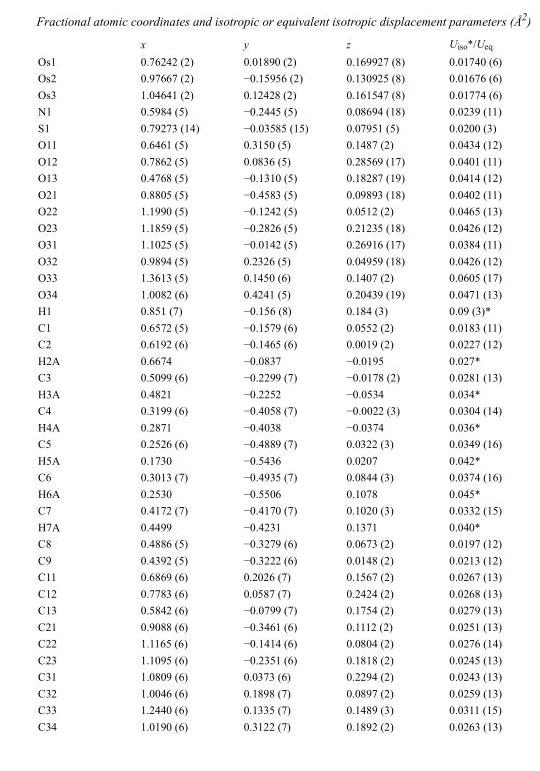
<table><thead><tr><td></td><td>x</td><td>y</td><td>z</td><td>U<sub>iso</sub>*/U<sub>eq</sub></td></tr></thead><tbody><tr><td>Os1</td><td>0.76242 (2)</td><td>0.01890 (2)</td><td>0.169927 (8)</td><td>0.01740 (6)</td></tr><tr><td>Os2</td><td>0.97667 (2)</td><td>−0.15956 (2)</td><td>0.130925 (8)</td><td>0.01676 (6)</td></tr><tr><td>Os3</td><td>1.04641 (2)</td><td>0.12428 (2)</td><td>0.161547 (8)</td><td>0.01774 (6)</td></tr><tr><td>N1</td><td>0.5984 (5)</td><td>−0.2445 (5)</td><td>0.08694 (18)</td><td>0.0239 (11)</td></tr><tr><td>S1</td><td>0.79273 (14)</td><td>−0.03585 (15)</td><td>0.07951 (5)</td><td>0.0200 (3)</td></tr><tr><td>O11</td><td>0.6461 (5)</td><td>0.3150 (5)</td><td>0.1487 (2)</td><td>0.0434 (12)</td></tr><tr><td>O12</td><td>0.7862 (5)</td><td>0.0836 (5)</td><td>0.28569 (17)</td><td>0.0401 (11)</td></tr><tr><td>O13</td><td>0.4768 (5)</td><td>−0.1310 (5)</td><td>0.18287 (19)</td><td>0.0414 (12)</td></tr><tr><td>O21</td><td>0.8805 (5)</td><td>−0.4583 (5)</td><td>0.09893 (18)</td><td>0.0402 (11)</td></tr><tr><td>O22</td><td>1.1990 (5)</td><td>−0.1242 (5)</td><td>0.0512 (2)</td><td>0.0465 (13)</td></tr><tr><td>O23</td><td>1.1859 (5)</td><td>−0.2826 (5)</td><td>0.21235 (18)</td><td>0.0426 (12)</td></tr><tr><td>O31</td><td>1.1025 (5)</td><td>−0.0142 (5)</td><td>0.26916 (17)</td><td>0.0384 (11)</td></tr><tr><td>O32</td><td>0.9894 (5)</td><td>0.2326 (5)</td><td>0.04959 (18)</td><td>0.0426 (12)</td></tr><tr><td>O33</td><td>1.3613 (5)</td><td>0.1450 (6)</td><td>0.1407 (2)</td><td>0.0605 (17)</td></tr><tr><td>O34</td><td>1.0082 (6)</td><td>0.4241 (5)</td><td>0.20439 (19)</td><td>0.0471 (13)</td></tr><tr><td>H1</td><td>0.851 (7)</td><td>−0.156 (8)</td><td>0.184 (3)</td><td>0.09 (3)*</td></tr><tr><td>C1</td><td>0.6572 (5)</td><td>−0.1579 (6)</td><td>0.0552 (2)</td><td>0.0183 (11)</td></tr><tr><td>C2</td><td>0.6192 (6)</td><td>−0.1465 (6)</td><td>0.0019 (2)</td><td>0.0227 (12)</td></tr><tr><td>H2A</td><td>0.6674</td><td>−0.0837</td><td>−0.0195</td><td>0.027*</td></tr><tr><td>C3</td><td>0.5099 (6)</td><td>−0.2299 (7)</td><td>−0.0178 (2)</td><td>0.0281 (13)</td></tr><tr><td>H3A</td><td>0.4821</td><td>−0.2252</td><td>−0.0534</td><td>0.034*</td></tr><tr><td>C4</td><td>0.3199 (6)</td><td>−0.4058 (7)</td><td>−0.0022 (3)</td><td>0.0304 (14)</td></tr><tr><td>H4A</td><td>0.2871</td><td>−0.4038</td><td>−0.0374</td><td>0.036*</td></tr><tr><td>C5</td><td>0.2526 (6)</td><td>−0.4889 (7)</td><td>0.0322 (3)</td><td>0.0349 (16)</td></tr><tr><td>H5A</td><td>0.1730</td><td>−0.5436</td><td>0.0207</td><td>0.042*</td></tr><tr><td>C6</td><td>0.3013 (7)</td><td>−0.4935 (7)</td><td>0.0844 (3)</td><td>0.0374 (16)</td></tr><tr><td>H6A</td><td>0.2530</td><td>−0.5506</td><td>0.1078</td><td>0.045*</td></tr><tr><td>C7</td><td>0.4172 (7)</td><td>−0.4170 (7)</td><td>0.1020 (3)</td><td>0.0332 (15)</td></tr><tr><td>H7A</td><td>0.4499</td><td>−0.4231</td><td>0.1371</td><td>0.040*</td></tr><tr><td>C8</td><td>0.4886 (5)</td><td>−0.3279 (6)</td><td>0.0673 (2)</td><td>0.0197 (12)</td></tr><tr><td>C9</td><td>0.4392 (5)</td><td>−0.3222 (6)</td><td>0.0148 (2)</td><td>0.0213 (12)</td></tr><tr><td>C11</td><td>0.6869 (6)</td><td>0.2026 (7)</td><td>0.1567 (2)</td><td>0.0267 (13)</td></tr><tr><td>C12</td><td>0.7783 (6)</td><td>0.0587 (7)</td><td>0.2424 (2)</td><td>0.0268 (13)</td></tr><tr><td>C13</td><td>0.5842 (6)</td><td>−0.0799 (7)</td><td>0.1754 (2)</td><td>0.0279 (13)</td></tr><tr><td>C21</td><td>0.9088 (6)</td><td>−0.3461 (6)</td><td>0.1112 (2)</td><td>0.0251 (13)</td></tr><tr><td>C22</td><td>1.1165 (6)</td><td>−0.1414 (6)</td><td>0.0804 (2)</td><td>0.0276 (14)</td></tr><tr><td>C23</td><td>1.1095 (6)</td><td>−0.2351 (6)</td><td>0.1818 (2)</td><td>0.0245 (13)</td></tr><tr><td>C31</td><td>1.0809 (6)</td><td>0.0373 (6)</td><td>0.2294 (2)</td><td>0.0243 (13)</td></tr><tr><td>C32</td><td>1.0046 (6)</td><td>0.1898 (7)</td><td>0.0897 (2)</td><td>0.0259 (13)</td></tr><tr><td>C33</td><td>1.2440 (6)</td><td>0.1335 (7)</td><td>0.1489 (3)</td><td>0.0311 (15)</td></tr><tr><td>C34</td><td>1.0190 (6)</td><td>0.3122 (7)</td><td>0.1892 (2)</td><td>0.0263 (13)</td></tr></tbody></table>